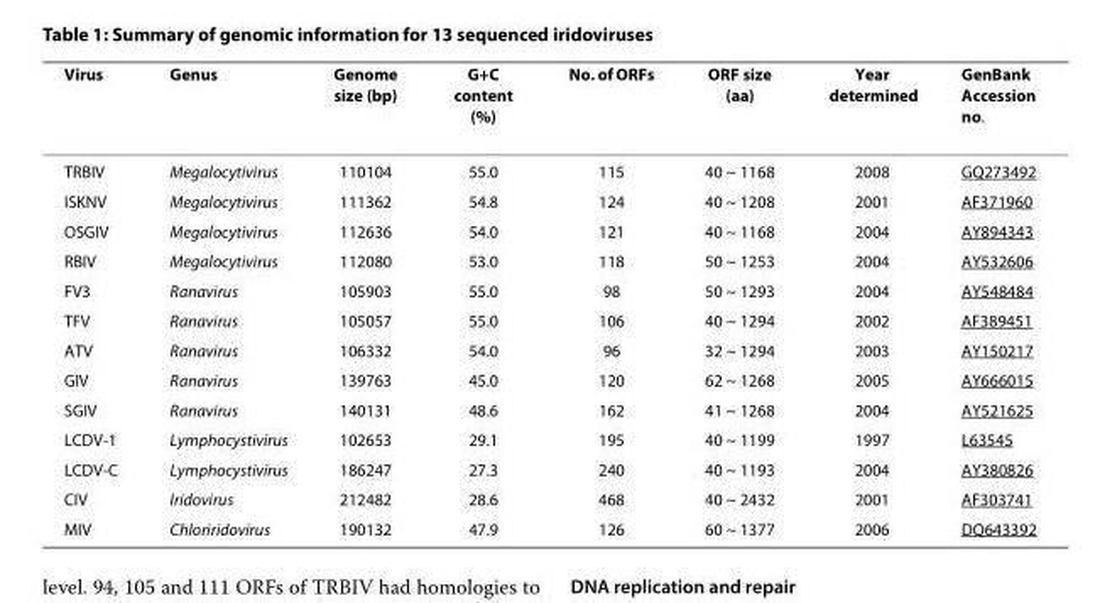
<table><thead><tr><td>Virus</td><td>Genus</td><td>Genome size (bp)</td><td>G+C content (%)</td><td>No. of ORFs</td><td>ORF size (aa)</td><td>Year determined</td><td>GenBank Accession no.</td></tr></thead><tbody><tr><td>TRBIV</td><td>Megalocytivirus</td><td>110104</td><td>55.0</td><td>115</td><td>40 ~ 1168</td><td>2008</td><td>GQ273492</td></tr><tr><td>ISKNV</td><td>Megalocytivirus</td><td>111362</td><td>54.8</td><td>124</td><td>40 ~ 1208</td><td>2001</td><td>AF371960</td></tr><tr><td>OSGIV</td><td>Megalocytivirus</td><td>112636</td><td>54.0</td><td>121</td><td>40 ~ 1168</td><td>2004</td><td>AY894343</td></tr><tr><td>RBIV</td><td>Megalocytivirus</td><td>112080</td><td>53.0</td><td>118</td><td>50 ~ 1253</td><td>2004</td><td>AY532606</td></tr><tr><td>FV3</td><td>Ranavirus</td><td>105903</td><td>55.0</td><td>98</td><td>50 ~ 1293</td><td>2004</td><td>AY548484</td></tr><tr><td>TFV</td><td>Ranavirus</td><td>105057</td><td>55.0</td><td>106</td><td>40 ~ 1294</td><td>2002</td><td>AF389451</td></tr><tr><td>ATV</td><td>Ranavirus</td><td>106332</td><td>54.0</td><td>96</td><td>32 ~ 1294</td><td>2003</td><td>AY150217</td></tr><tr><td>GIV</td><td>Ranavirus</td><td>139763</td><td>45.0</td><td>120</td><td>62 ~ 1268</td><td>2005</td><td>AY666015</td></tr><tr><td>SGIV</td><td>Ranavirus</td><td>140131</td><td>48.6</td><td>162</td><td>41 ~ 1268</td><td>2004</td><td>AY521625</td></tr><tr><td>LCDV-1</td><td>Lymphocystivirus</td><td>102653</td><td>29.1</td><td>195</td><td>40 ~ 1199</td><td>1997</td><td>L63545</td></tr><tr><td>LCDV-C</td><td>Lymphocystivirus</td><td>186247</td><td>27.3</td><td>240</td><td>40 ~ 1193</td><td>2004</td><td>AY380826</td></tr><tr><td>CIV</td><td>Iridovirus</td><td>212482</td><td>28.6</td><td>468</td><td>40 ~ 2432</td><td>2001</td><td>AF303741</td></tr><tr><td>MIV</td><td>Chloriridovirus</td><td>190132</td><td>47.9</td><td>126</td><td>60 ~ 1377</td><td>2006</td><td>DQ643392</td></tr></tbody></table>